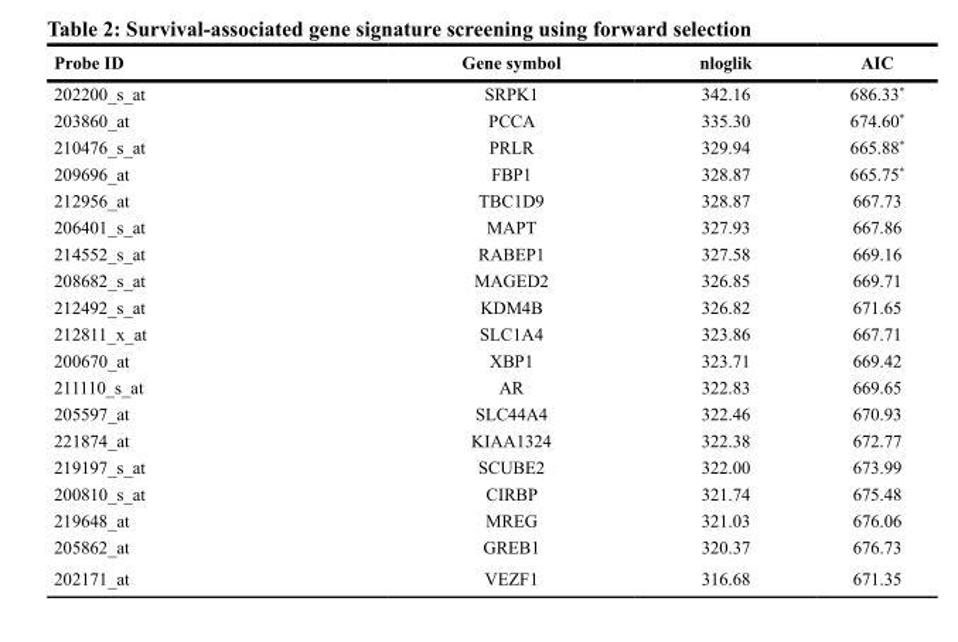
<table><thead><tr><td>Probe ID</td><td>Gene symbol</td><td>nloglik</td><td>AIC</td></tr></thead><tbody><tr><td>202200_s_at</td><td>SRPK1</td><td>342.16</td><td>686.33*</td></tr><tr><td>203860_at</td><td>PCCA</td><td>335.30</td><td>674.60*</td></tr><tr><td>210476_s_at</td><td>PRLR</td><td>329.94</td><td>665.88*</td></tr><tr><td>209696_at</td><td>FBP1</td><td>328.87</td><td>665.75*</td></tr><tr><td>212956_at</td><td>TBC1D9</td><td>328.87</td><td>667.73</td></tr><tr><td>206401_s_at</td><td>MAPT</td><td>327.93</td><td>667.86</td></tr><tr><td>214552_s_at</td><td>RABEP1</td><td>327.58</td><td>669.16</td></tr><tr><td>208682_s_at</td><td>MAGED2</td><td>326.85</td><td>669.71</td></tr><tr><td>212492_s_at</td><td>KDM4B</td><td>326.82</td><td>671.65</td></tr><tr><td>212811_x_at</td><td>SLC1A4</td><td>323.86</td><td>667.71</td></tr><tr><td>200670_at</td><td>XBP1</td><td>323.71</td><td>669.42</td></tr><tr><td>211110_s_at</td><td>AR</td><td>322.83</td><td>669.65</td></tr><tr><td>205597_at</td><td>SLC44A4</td><td>322.46</td><td>670.93</td></tr><tr><td>221874_at</td><td>KIAA1324</td><td>322.38</td><td>672.77</td></tr><tr><td>219197_s_at</td><td>SCUBE2</td><td>322.00</td><td>673.99</td></tr><tr><td>200810_s_at</td><td>CIRBP</td><td>321.74</td><td>675.48</td></tr><tr><td>219648_at</td><td>MREG</td><td>321.03</td><td>676.06</td></tr><tr><td>205862_at</td><td>GREB1</td><td>320.37</td><td>676.73</td></tr><tr><td>202171_at</td><td>VEZF1</td><td>316.68</td><td>671.35</td></tr></tbody></table>